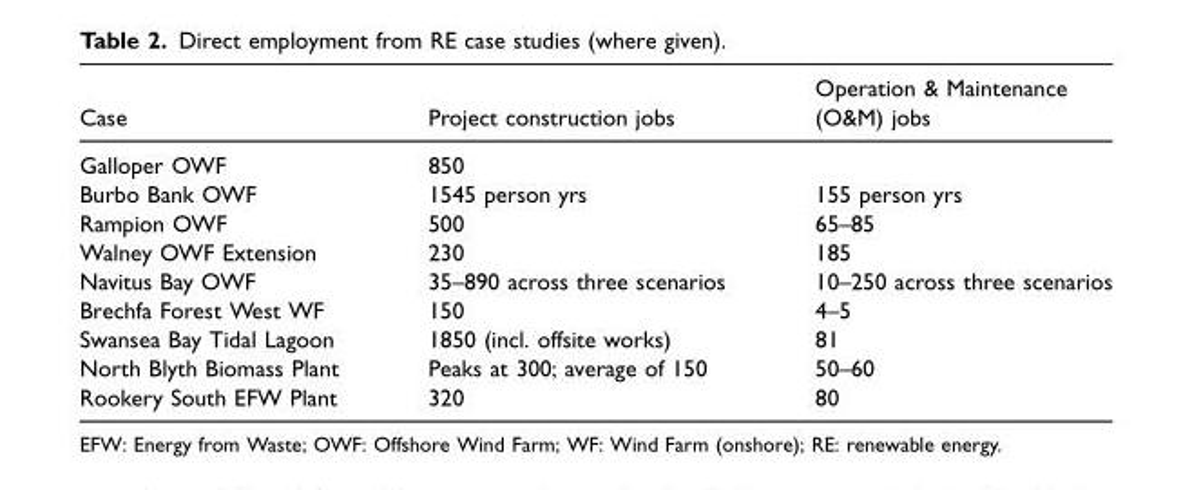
<table><thead><tr><td>Case</td><td>Project construction jobs</td><td>Operation &amp; Maintenance (O&amp;M) jobs</td></tr></thead><tbody><tr><td>Galloper OWF</td><td>850</td><td></td></tr><tr><td>Burbo Bank OWF</td><td>1545 person yrs</td><td>155 person yrs</td></tr><tr><td>Rampion OWF</td><td>500</td><td>65–85</td></tr><tr><td>Walney OWF Extension</td><td>230</td><td>185</td></tr><tr><td>Navitus Bay OWF</td><td>35–890 across three scenarios</td><td>10–250 across three scenarios</td></tr><tr><td>Brechfa Forest West WF</td><td>150</td><td>4–5</td></tr><tr><td>Swansea Bay Tidal Lagoon</td><td>1850 (incl. offsite works)</td><td>81</td></tr><tr><td>North Blyth Biomass Plant</td><td>Peaks at 300; average of 150</td><td>50–60</td></tr><tr><td>Rookery South EFW Plant</td><td>320</td><td>80</td></tr></tbody></table>